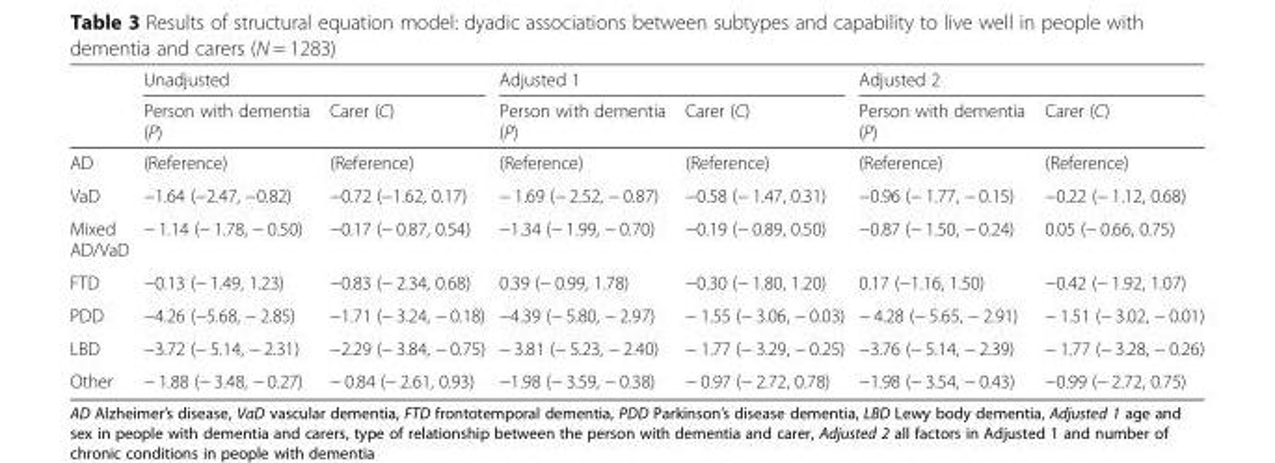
<table><thead><tr><td rowspan="2"></td><td colspan="2">Unadjusted</td><td colspan="2">Adjusted 1</td><td colspan="2">Adjusted 2</td></tr><tr><td>Person with dementia (P)</td><td>Carer (C)</td><td>Person with dementia (P)</td><td>Carer (C)</td><td>Person with dementia (P)</td><td>Carer (C)</td></tr></thead><tbody><tr><td>AD</td><td>(Reference)</td><td>(Reference)</td><td>(Reference)</td><td>(Reference)</td><td>(Reference)</td><td>(Reference)</td></tr><tr><td>VaD</td><td>−1.64 (−2.47, −0.82)</td><td>−0.72 (−1.62, 0.17)</td><td>− 1.69 (− 2.52, − 0.87)</td><td>−0.58 (− 1.47, 0.31)</td><td>−0.96 (− 1.77, − 0.15)</td><td>−0.22 (− 1.12, 0.68)</td></tr><tr><td>Mixed AD/VaD</td><td>− 1.14 (− 1.78, − 0.50)</td><td>−0.17 (− 0.87, 0.54)</td><td>−1.34 (− 1.99, − 0.70)</td><td>−0.19 (− 0.89, 0.50)</td><td>−0.87 (− 1.50, − 0.24)</td><td>0.05 (− 0.66, 0.75)</td></tr><tr><td>FTD</td><td>−0.13 (− 1.49, 1.23)</td><td>−0.83 (− 2.34, 0.68)</td><td>0.39 (− 0.99, 1.78)</td><td>−0.30 (− 1.80, 1.20)</td><td>0.17 (−1.16, 1.50)</td><td>−0.42 (− 1.92, 1.07)</td></tr><tr><td>PDD</td><td>−4.26 (−5.68, − 2.85)</td><td>−1.71 (− 3.24, − 0.18)</td><td>−4.39 (− 5.80, − 2.97)</td><td>− 1.55 (− 3.06, − 0.03)</td><td>− 4.28 (− 5.65, − 2.91)</td><td>− 1.51 (− 3.02, − 0.01)</td></tr><tr><td>LBD</td><td>−3.72 (− 5.14, − 2.31)</td><td>−2.29 (− 3.84, − 0.75)</td><td>− 3.81 (− 5.23, − 2.40)</td><td>− 1.77 (− 3.29, − 0.25)</td><td>−3.76 (− 5.14, − 2.39)</td><td>− 1.77 (− 3.28, − 0.26)</td></tr><tr><td>Other</td><td>− 1.88 (− 3.48, − 0.27)</td><td>− 0.84 (− 2.61, 0.93)</td><td>−1.98 (− 3.59, − 0.38)</td><td>− 0.97 (− 2.72, 0.78)</td><td>−1.98 (− 3.54, − 0.43)</td><td>−0.99 (− 2.72, 0.75)</td></tr></tbody></table>